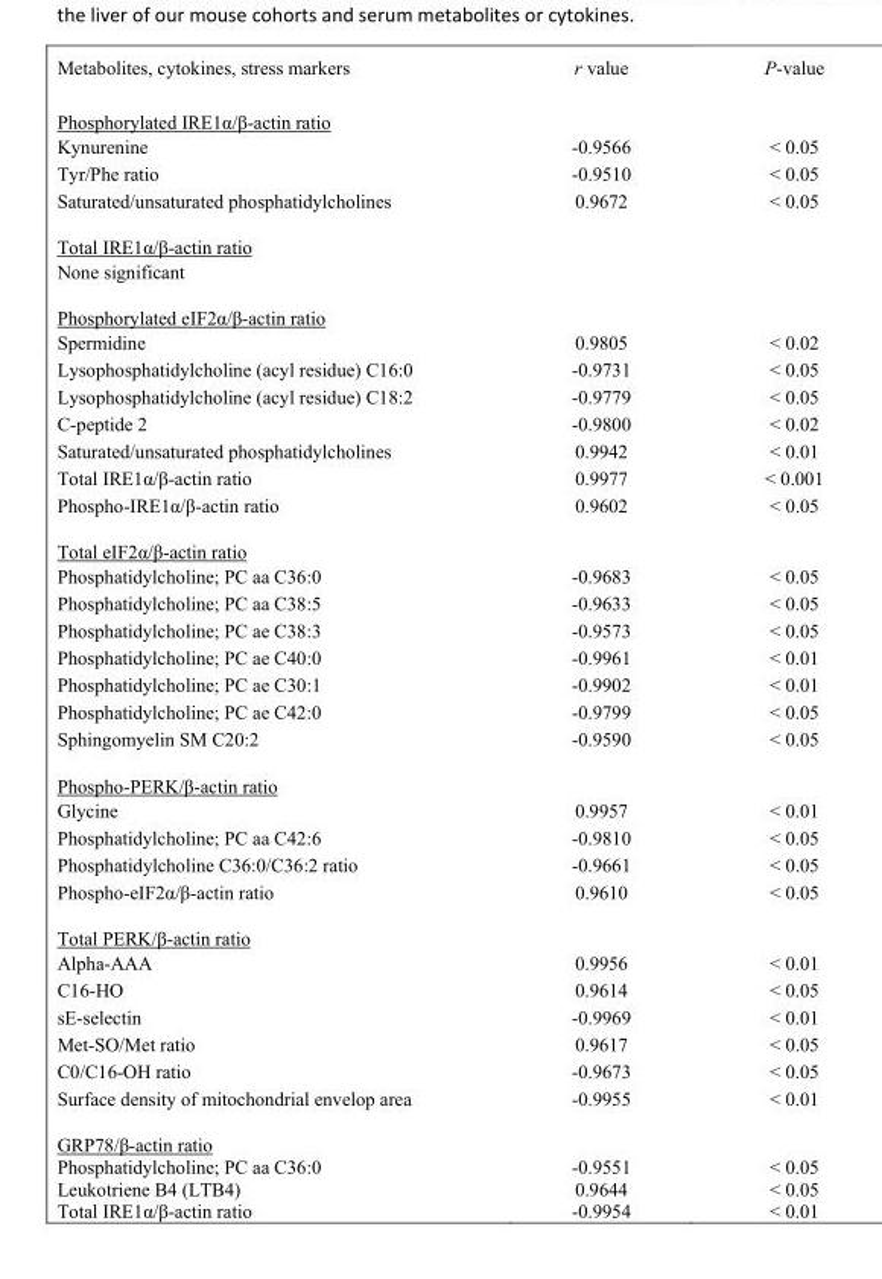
<table><thead><tr><td>Metabolites, cytokines, stress markers</td><td>r value</td><td>P-value</td></tr></thead><tbody><tr><td colspan="3">Phosphorylated IRE1α/β-actin ratio</td></tr><tr><td>Kynurenine</td><td>-0.9566</td><td>&lt; 0.05</td></tr><tr><td>Tyr/Phe ratio</td><td>-0.9510</td><td>&lt; 0.05</td></tr><tr><td>Saturated/unsaturated phosphatidylcholines</td><td>0.9672</td><td>&lt; 0.05</td></tr><tr><td colspan="3">Total IRE1α/β-actin ratio</td></tr><tr><td colspan="3">None significant</td></tr><tr><td colspan="3">Phosphorylated eIF2α/β-actin ratio</td></tr><tr><td>Spermidine</td><td>0.9805</td><td>&lt; 0.02</td></tr><tr><td>Lysophosphatidylcholine (acyl residue) C16:0</td><td>-0.9731</td><td>&lt; 0.05</td></tr><tr><td>Lysophosphatidylcholine (acyl residue) C18:2</td><td>-0.9779</td><td>&lt; 0.05</td></tr><tr><td>C-peptide 2</td><td>-0.9800</td><td>&lt; 0.02</td></tr><tr><td>Saturated/unsaturated phosphatidylcholines</td><td>0.9942</td><td>&lt; 0.01</td></tr><tr><td>Total IRE1α/β-actin ratio</td><td>0.9977</td><td>&lt; 0.001</td></tr><tr><td>Phospho-IRE1α/β-actin ratio</td><td>0.9602</td><td>&lt; 0.05</td></tr><tr><td colspan="3">Total eIF2α/β-actin ratio</td></tr><tr><td>Phosphatidylcholine; PC aa C36:0</td><td>-0.9683</td><td>&lt; 0.05</td></tr><tr><td>Phosphatidylcholine; PC aa C38:5</td><td>-0.9633</td><td>&lt; 0.05</td></tr><tr><td>Phosphatidylcholine; PC ae C38:3</td><td>-0.9573</td><td>&lt; 0.05</td></tr><tr><td>Phosphatidylcholine; PC ae C40:0</td><td>-0.9961</td><td>&lt; 0.01</td></tr><tr><td>Phosphatidylcholine; PC ae C30:1</td><td>-0.9902</td><td>&lt; 0.01</td></tr><tr><td>Phosphatidylcholine; PC ae C42:0</td><td>-0.9799</td><td>&lt; 0.05</td></tr><tr><td>Sphingomyelin SM C20:2</td><td>-0.9590</td><td>&lt; 0.05</td></tr><tr><td colspan="3">Phospho-PERK/β-actin ratio</td></tr><tr><td>Glycine</td><td>0.9957</td><td>&lt; 0.01</td></tr><tr><td>Phosphatidylcholine; PC aa C42:6</td><td>-0.9810</td><td>&lt; 0.05</td></tr><tr><td>Phosphatidylcholine C36:0/C36:2 ratio</td><td>-0.9661</td><td>&lt; 0.05</td></tr><tr><td>Phospho-eIF2α/β-actin ratio</td><td>0.9610</td><td>&lt; 0.05</td></tr><tr><td colspan="3">Total PERK/β-actin ratio</td></tr><tr><td>Alpha-AAA</td><td>0.9956</td><td>&lt; 0.01</td></tr><tr><td>C16-HO</td><td>0.9614</td><td>&lt; 0.05</td></tr><tr><td>sE-selectin</td><td>-0.9969</td><td>&lt; 0.01</td></tr><tr><td>Met-SO/Met ratio</td><td>0.9617</td><td>&lt; 0.05</td></tr><tr><td>C0/C16-OH ratio</td><td>-0.9673</td><td>&lt; 0.05</td></tr><tr><td>Surface density of mitochondrial envelop area</td><td>-0.9955</td><td>&lt; 0.01</td></tr><tr><td colspan="3">GRP78/β-actin ratio</td></tr><tr><td>Phosphatidylcholine; PC aa C36:0</td><td>-0.9551</td><td>&lt; 0.05</td></tr><tr><td>Leukotriene B4 (LTB4)</td><td>0.9644</td><td>&lt; 0.05</td></tr><tr><td>Total IRE1α/β-actin ratio</td><td>-0.9954</td><td>&lt; 0.01</td></tr></tbody></table>